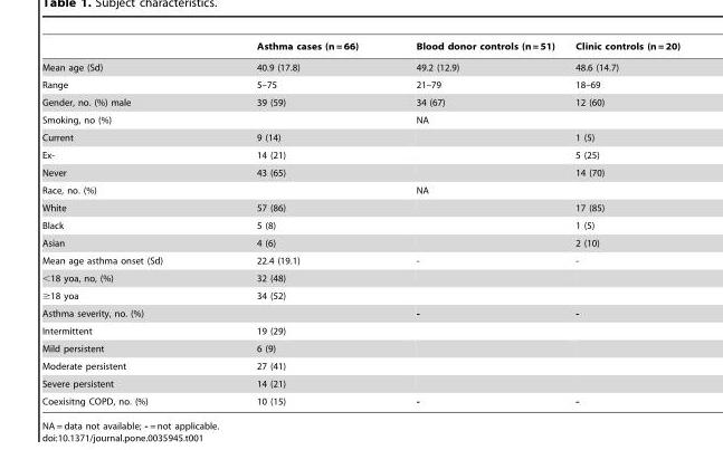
<table><thead><tr><td></td><td>Asthma cases (n = 66)</td><td>Blood donor controls (n = 51)</td><td>Clinic controls (n = 20)</td></tr></thead><tbody><tr><td>Mean age (Sd)</td><td>40.9 (17.8)</td><td>49.2 (12.9)</td><td>48.6 (14.7)</td></tr><tr><td>Range</td><td>5–75</td><td>21–79</td><td>18–69</td></tr><tr><td>Gender, no. (%) male</td><td>39 (59)</td><td>34 (67)</td><td>12 (60)</td></tr><tr><td>Smoking, no (%)</td><td></td><td>NA</td><td></td></tr><tr><td>Current</td><td>9 (14)</td><td></td><td>1 (5)</td></tr><tr><td>Ex-</td><td>14 (21)</td><td></td><td>5 (25)</td></tr><tr><td>Never</td><td>43 (65)</td><td></td><td>14 (70)</td></tr><tr><td>Race, no. (%)</td><td></td><td>NA</td><td></td></tr><tr><td>White</td><td>57 (86)</td><td></td><td>17 (85)</td></tr><tr><td>Black</td><td>5 (8)</td><td></td><td>1 (5)</td></tr><tr><td>Asian</td><td>4 (6)</td><td></td><td>2 (10)</td></tr><tr><td>Mean age asthma onset (Sd)</td><td>22.4 (19.1)</td><td>-</td><td>-</td></tr><tr><td>&lt;18 yoa, no, (%)</td><td>32 (48)</td><td></td><td></td></tr><tr><td>≥18 yoa</td><td>34 (52)</td><td></td><td></td></tr><tr><td>Asthma severity, no. (%)</td><td></td><td>-</td><td>-</td></tr><tr><td>Intermittent</td><td>19 (29)</td><td></td><td></td></tr><tr><td>Mild persistent</td><td>6 (9)</td><td></td><td></td></tr><tr><td>Moderate persistent</td><td>27 (41)</td><td></td><td></td></tr><tr><td>Severe persistent</td><td>14 (21)</td><td></td><td></td></tr><tr><td>Coexisitng COPD, no. (%)</td><td>10 (15)</td><td>-</td><td>-</td></tr></tbody></table>